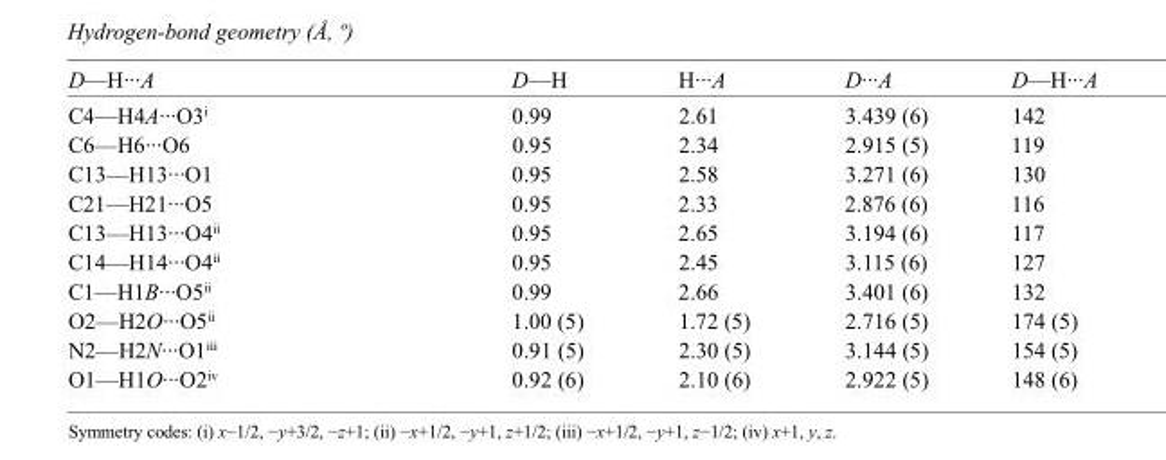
<table><tbody><tr><td>D—H···A</td><td>D—H</td><td>H···A</td><td>D···A</td><td>D—H···A</td></tr><tr><td>C4—H4A···O3<sup>i</sup></td><td>0.99</td><td>2.61</td><td>3.439 (6)</td><td>142</td></tr><tr><td>C6—H6···O6</td><td>0.95</td><td>2.34</td><td>2.915 (5)</td><td>119</td></tr><tr><td>C13—H13···O1</td><td>0.95</td><td>2.58</td><td>3.271 (6)</td><td>130</td></tr><tr><td>C21—H21···O5</td><td>0.95</td><td>2.33</td><td>2.876 (6)</td><td>116</td></tr><tr><td>C13—H13···O4<sup>ii</sup></td><td>0.95</td><td>2.65</td><td>3.194 (6)</td><td>117</td></tr><tr><td>C14—H14···O4<sup>ii</sup></td><td>0.95</td><td>2.45</td><td>3.115 (6)</td><td>127</td></tr><tr><td>C1—H1B···O5<sup>ii</sup></td><td>0.99</td><td>2.66</td><td>3.401 (6)</td><td>132</td></tr><tr><td>O2—H2O···O5<sup>ii</sup></td><td>1.00 (5)</td><td>1.72 (5)</td><td>2.716 (5)</td><td>174 (5)</td></tr><tr><td>N2—H2N···O1<sup>iii</sup></td><td>0.91 (5)</td><td>2.30 (5)</td><td>3.144 (5)</td><td>154 (5)</td></tr><tr><td>O1—H1O···O2<sup>iv</sup></td><td>0.92 (6)</td><td>2.10 (6)</td><td>2.922 (5)</td><td>148 (6)</td></tr></tbody></table>